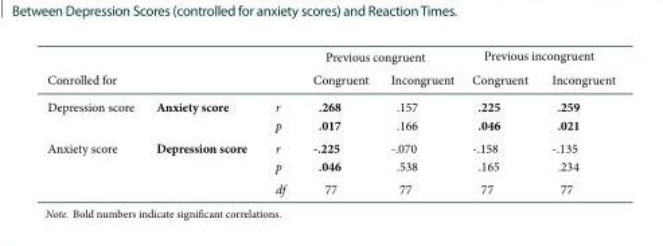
<table><thead><tr><td rowspan="2">Conrolled for</td><td rowspan="2"></td><td rowspan="2"></td><td colspan="2">Previous congruent</td><td colspan="2">Previous incongruent</td></tr><tr><td>Congruent</td><td>Incongruent</td><td>Congruent</td><td>Incongruent</td></tr></thead><tbody><tr><td rowspan="2">Depression score</td><td>Anxiety score</td><td>r</td><td>.268</td><td>.157</td><td>.225</td><td>.259</td></tr><tr><td></td><td>p</td><td>.017</td><td>.166</td><td>.046</td><td>.021</td></tr><tr><td rowspan="3">Anxiety score</td><td>depression score</td><td>r</td><td>-.225</td><td>-.070</td><td>-.158</td><td>-.135</td></tr><tr><td></td><td>p</td><td>.046</td><td>.538</td><td>.165</td><td>.234</td></tr><tr><td></td><td>df</td><td>77</td><td>77</td><td>77</td><td>77</td></tr></tbody></table>